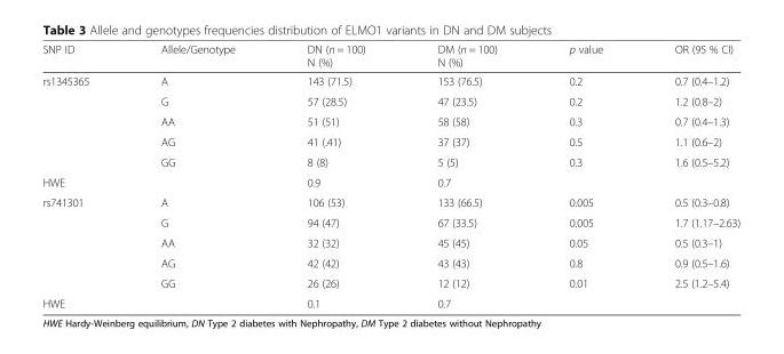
<table><thead><tr><td>SNP ID</td><td>Allele/Genotype</td><td>DN (n = 100) N (%)</td><td>DM (n = 100) N (%)</td><td>p value</td><td>OR (95 % CI)</td></tr></thead><tbody><tr><td rowspan="5">rs1345365</td><td>A</td><td>143 (71.5)</td><td>153 (76.5)</td><td>0.2</td><td>0.7 (0.4–1.2)</td></tr><tr><td>G</td><td>57 (28.5)</td><td>47 (23.5)</td><td>0.2</td><td>1.2 (0.8–2)</td></tr><tr><td>AA</td><td>51 (51)</td><td>58 (58)</td><td>0.3</td><td>0.7 (0.4–1.3)</td></tr><tr><td>AG</td><td>41 (.41)</td><td>37 (37)</td><td>0.5</td><td>1.1 (0.6–2)</td></tr><tr><td>GG</td><td>8 (8)</td><td>5 (5)</td><td>0.3</td><td>1.6 (0.5–5.2)</td></tr><tr><td>HWE</td><td></td><td>0.9</td><td>0.7</td><td></td><td></td></tr><tr><td rowspan="5">rs741301</td><td>A</td><td>106 (53)</td><td>133 (66.5)</td><td>0.005</td><td>0.5 (0.3–0.8)</td></tr><tr><td>G</td><td>94 (47)</td><td>67 (33.5)</td><td>0.005</td><td>1.7 (1.17–2.63)</td></tr><tr><td>AA</td><td>32 (32)</td><td>45 (45)</td><td>0.05</td><td>0.5 (0.3–1)</td></tr><tr><td>AG</td><td>42 (42)</td><td>43 (43)</td><td>0.8</td><td>0.9 (0.5–1.6)</td></tr><tr><td>GG</td><td>26 (26)</td><td>12 (12)</td><td>0.01</td><td>2.5 (1.2–5.4)</td></tr><tr><td>HWE</td><td></td><td>0.1</td><td>0.7</td><td></td><td></td></tr></tbody></table>